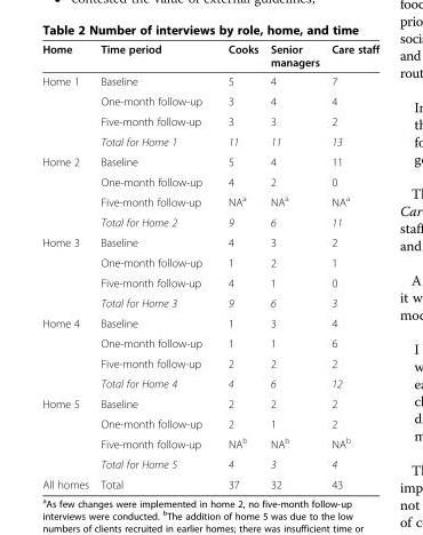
<table><thead><tr><td>Home</td><td>Time period</td><td>Cooks</td><td>Senior managers</td><td>Care staff</td></tr></thead><tbody><tr><td rowspan="4">Home 1</td><td>Baseline</td><td>5</td><td>4</td><td>7</td></tr><tr><td>One-month follow-up</td><td>3</td><td>4</td><td>4</td></tr><tr><td>Five-month follow-up</td><td>3</td><td>3</td><td>2</td></tr><tr><td>Total for Home 1</td><td>11</td><td>11</td><td>13</td></tr><tr><td rowspan="4">Home 2</td><td>Baseline</td><td>5</td><td>4</td><td>11</td></tr><tr><td>One-month follow-up</td><td>4</td><td>2</td><td>0</td></tr><tr><td>Five-month follow-up</td><td>NA<sup>a</sup></td><td>NA<sup>a</sup></td><td>NA<sup>a</sup></td></tr><tr><td>Total for Home 2</td><td>9</td><td>6</td><td>11</td></tr><tr><td rowspan="4">Home 3</td><td>Baseline</td><td>4</td><td>3</td><td>2</td></tr><tr><td>One-month follow-up</td><td>1</td><td>2</td><td>1</td></tr><tr><td>Five-month follow-up</td><td>4</td><td>1</td><td>0</td></tr><tr><td>Total for Home 3</td><td>9</td><td>6</td><td>3</td></tr><tr><td rowspan="4">Home 4</td><td>Baseline</td><td>1</td><td>3</td><td>4</td></tr><tr><td>One-month follow-up</td><td>1</td><td>1</td><td>6</td></tr><tr><td>Five-month follow-up</td><td>2</td><td>2</td><td>2</td></tr><tr><td>Total for Home 4</td><td>4</td><td>6</td><td>12</td></tr><tr><td rowspan="4">Home 5</td><td>Baseline</td><td>2</td><td>2</td><td>2</td></tr><tr><td>One-month follow-up</td><td>2</td><td>1</td><td>2</td></tr><tr><td>Five-month follow-up</td><td>NA<sup>b</sup></td><td>NA<sup>b</sup></td><td>NA<sup>b</sup></td></tr><tr><td>Total for Home 5</td><td>4</td><td>3</td><td>4</td></tr><tr><td>All homes</td><td>Total</td><td>37</td><td>32</td><td>43</td></tr></tbody></table>